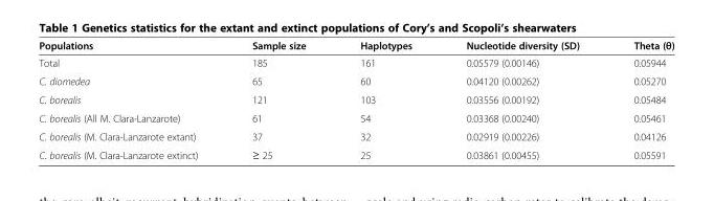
<table><thead><tr><td>Populations</td><td>Sample size</td><td>Haplotypes</td><td>Nucleotide diversity (SD)</td><td>Theta (θ)</td></tr></thead><tbody><tr><td>Total</td><td>185</td><td>161</td><td>0.05579 (0.00146)</td><td>0.05944</td></tr><tr><td>C. diomedea</td><td>65</td><td>60</td><td>0.04120 (0.00262)</td><td>0.05270</td></tr><tr><td>C. borealis</td><td>121</td><td>103</td><td>0.03556 (0.00192)</td><td>0.05484</td></tr><tr><td>C. borealis (All M. Clara-Lanzarote)</td><td>61</td><td>54</td><td>0.03368 (0.00240)</td><td>0.05461</td></tr><tr><td>C. borealis (M. Clara-Lanzarote extant)</td><td>37</td><td>32</td><td>0.02919 (0.00226)</td><td>0.04126</td></tr><tr><td>C. borealis (M. Clara-Lanzarote extinct)</td><td>≥ 25</td><td>25</td><td>0.03861 (0.00455)</td><td>0.05591</td></tr></tbody></table>